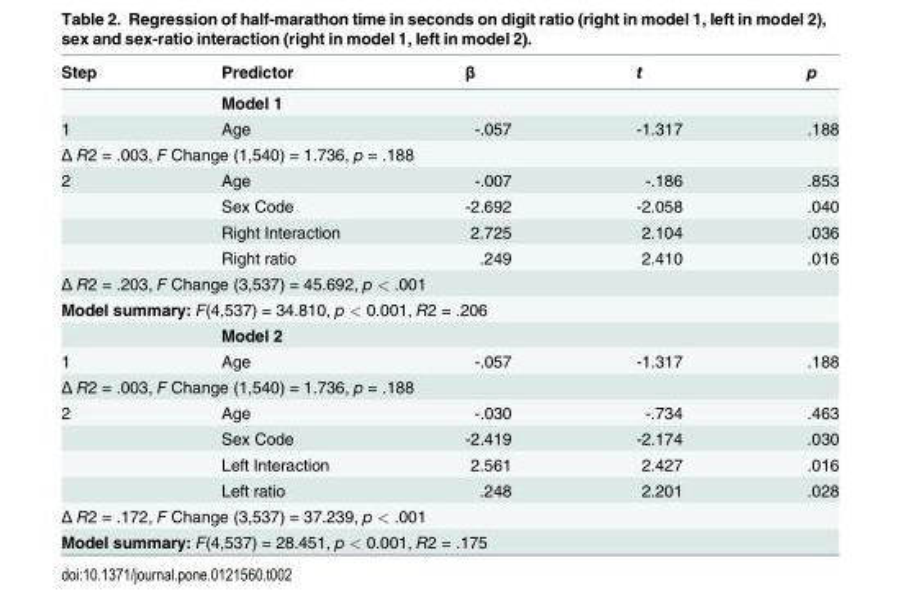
<table><thead><tr><td>Step</td><td>Predictor</td><td>β</td><td>t</td><td>p</td></tr></thead><tbody><tr><td></td><td>Model 1</td><td></td><td></td><td></td></tr><tr><td>1</td><td>Age</td><td>-.057</td><td>-1.317</td><td>.188</td></tr><tr><td colspan="5">Δ R2 = .003, F Change (1,540) = 1.736, p = .188</td></tr><tr><td rowspan="4">2</td><td>Age</td><td>-.007</td><td>-.186</td><td>.853</td></tr><tr><td>Sex Code</td><td>-2.692</td><td>-2.058</td><td>.040</td></tr><tr><td>Right Interaction</td><td>2.725</td><td>2.104</td><td>.036</td></tr><tr><td>Right ratio</td><td>.249</td><td>2.410</td><td>.016</td></tr><tr><td colspan="5">Δ R2 = .203, F Change (3,537) = 45.692, p &lt; .001</td></tr><tr><td colspan="5">Model summary: F(4,537) = 34.810, p &lt; 0.001, R2 = .206</td></tr><tr><td></td><td>Model 2</td><td></td><td></td><td></td></tr><tr><td>1</td><td>Age</td><td>-.057</td><td>-1.317</td><td>.188</td></tr><tr><td colspan="5">Δ R2 = .003, F Change (1,540) = 1.736, p = .188</td></tr><tr><td rowspan="4">2</td><td>Age</td><td>-.030</td><td>-.734</td><td>.463</td></tr><tr><td>Sex Code</td><td>-2.419</td><td>-2.174</td><td>.030</td></tr><tr><td>Left Interaction</td><td>2.561</td><td>2.427</td><td>.016</td></tr><tr><td>Left ratio</td><td>.248</td><td>2.201</td><td>.028</td></tr><tr><td colspan="5">Δ R2 = .172, F Change (3,537) = 37.239, p &lt; .001</td></tr><tr><td colspan="5">Model summary: F(4,537) = 28.451, p &lt; 0.001, R2 = .175</td></tr></tbody></table>